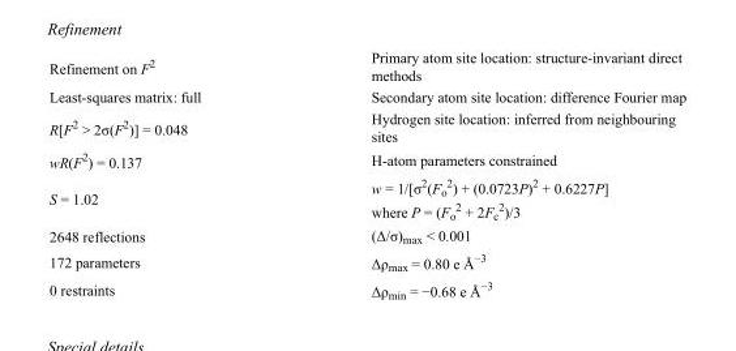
<table><tbody><tr><td>Refinement on F<sup>2</sup></td><td>Primary atom site location: structure-invariant direct methods</td></tr><tr><td>Least-squares matrix: full</td><td>Secondary atom site location: difference Fourier map</td></tr><tr><td>R[F<sup>2</sup> &gt; 2σ(F<sup>2</sup>)] = 0.048</td><td>Hydrogen site location: inferred from neighbouring sites</td></tr><tr><td>wR(F<sup>2</sup>) = 0.137</td><td>H-atom parameters constrained</td></tr><tr><td>S = 1.02</td><td>w = 1/[σ<sup>2</sup>(F<sub>o</sub> <sup>2</sup>) + (0.0723P)<sup>2</sup> + 0.6227P] where P = (F<sub>o</sub> <sup>2</sup> + 2F<sub>c</sub> <sup>2</sup>)/3</td></tr><tr><td>2648 reflections</td><td>(Δ/σ)<sub>max</sub> &lt; 0.001</td></tr><tr><td>172 parameters</td><td>Δρ<sub>max</sub> = 0.80 e Å<sup>−3</sup></td></tr><tr><td>0 restraints</td><td>Δρ<sub>min</sub> = −0.68 e Å<sup>−3</sup></td></tr></tbody></table>